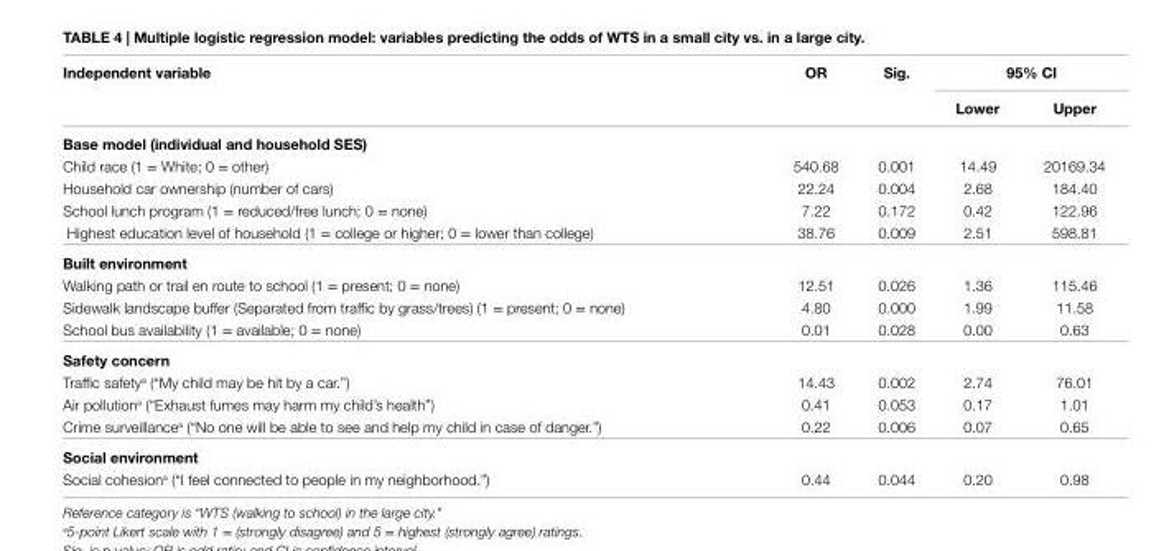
<table><thead><tr><td rowspan="2">independent variable</td><td rowspan="2">Or</td><td rowspan="2">sig.</td><td colspan="2">95% ci</td></tr><tr><td>lower</td><td>Upper</td></tr></thead><tbody><tr><td colspan="5">Base model (individual and household ses)</td></tr><tr><td>Child race (1 = White; 0 = other)</td><td>540.68</td><td>0.001</td><td>14.49</td><td>20169.34</td></tr><tr><td>Household car ownership (number of cars)</td><td>22.24</td><td>0.004</td><td>2.68</td><td>184.40</td></tr><tr><td>School lunch program (1 = reduced/free lunch; 0 = none)</td><td>7.22</td><td>0.172</td><td>0.42</td><td>122.96</td></tr><tr><td>Highest education level of household (1 = college or higher; 0 = lower than college)</td><td>38.76</td><td>0.009</td><td>2.51</td><td>598.81</td></tr><tr><td colspan="5">Built environment</td></tr><tr><td>Walking path or trail en route to school (1 = present; 0 = none)</td><td>12.51</td><td>0.026</td><td>1.36</td><td>115.46</td></tr><tr><td>Sidewalk landscape buffer (Separated from traffic by grass/trees) (1 = present; 0 = none)</td><td>4.80</td><td>0.000</td><td>1.99</td><td>11.58</td></tr><tr><td>School bus availability (1 = available; 0 = none)</td><td>0.01</td><td>0.028</td><td>0.00</td><td>0.63</td></tr><tr><td colspan="5">safety concern</td></tr><tr><td>Traffic safety<sup>a</sup> (“My child may be hit by a car.”)</td><td>14.43</td><td>0.002</td><td>2.74</td><td>76.01</td></tr><tr><td>Air pollution<sup>a</sup> (“Exhaust fumes may harm my child’s health”)</td><td>0.41</td><td>0.053</td><td>0.17</td><td>1.01</td></tr><tr><td>Crime surveillance<sup>a</sup> (“No one will be able to see and help my child in case of danger.”)</td><td>0.22</td><td>0.006</td><td>0.07</td><td>0.65</td></tr><tr><td colspan="5">social environment</td></tr><tr><td>Social cohesion<sup>a</sup> (“I feel connected to people in my neighborhood.”)</td><td>0.44</td><td>0.044</td><td>0.20</td><td>0.98</td></tr></tbody></table>